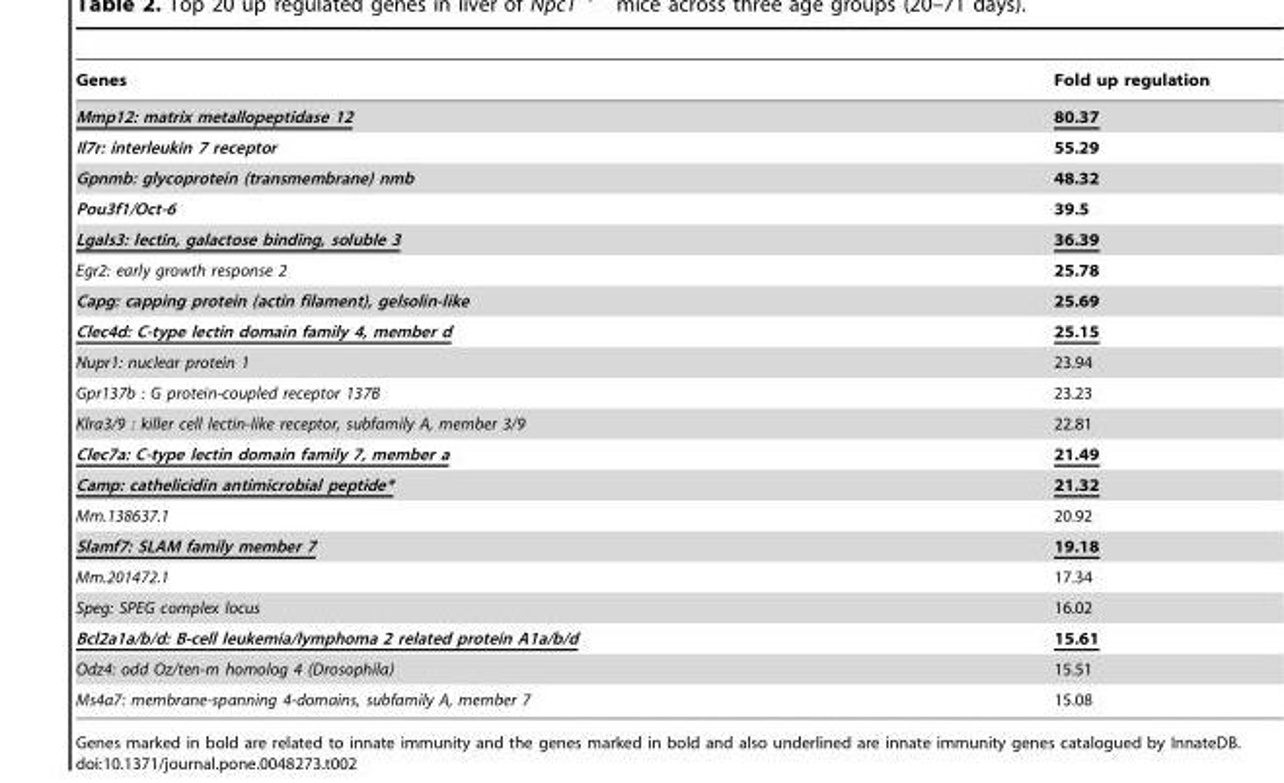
<table><thead><tr><td>Genes</td><td>Fold up regulation</td></tr></thead><tbody><tr><td>Mmp12: matrix metallopeptidase 12</td><td>80.37</td></tr><tr><td>Il7r: interleukin 7 receptor</td><td>55.29</td></tr><tr><td>Gpnmb: glycoprotein (transmembrane) nmb</td><td>48.32</td></tr><tr><td>Pou3f1/Oct-6</td><td>39.5</td></tr><tr><td>Lgals3: lectin, galactose binding, soluble 3</td><td>36.39</td></tr><tr><td>Egr2: early growth response 2</td><td>25.78</td></tr><tr><td>Capg: capping protein (actin filament), gelsolin-like</td><td>25.69</td></tr><tr><td>Clec4d: C-type lectin domain family 4, member d</td><td>25.15</td></tr><tr><td>Nupr1: nuclear protein 1</td><td>23.94</td></tr><tr><td>Gpr137b : G protein-coupled receptor 137B</td><td>23.23</td></tr><tr><td>Klra3/9 : killer cell lectin-like receptor, subfamily A, member 3/9</td><td>22.81</td></tr><tr><td>Clec7a: C-type lectin domain family 7, member a</td><td>21.49</td></tr><tr><td>Camp: cathelicidin antimicrobial peptide*</td><td>21.32</td></tr><tr><td>Mm.138637.1</td><td>20.92</td></tr><tr><td>Slamf7: SLAM family member 7</td><td>19.18</td></tr><tr><td>Mm.201472.1</td><td>17.34</td></tr><tr><td>Speg: SPEG complex locus</td><td>16.02</td></tr><tr><td>Bcl2a1a/b/d: B-cell leukemia/lymphoma 2 related protein A1a/b/d</td><td>15.61</td></tr><tr><td>Odz4: odd Oz/ten-m homolog 4 (Drosophila)</td><td>15.51</td></tr><tr><td>Ms4a7: membrane-spanning 4-domains, subfamily A, member 7</td><td>15.08</td></tr></tbody></table>